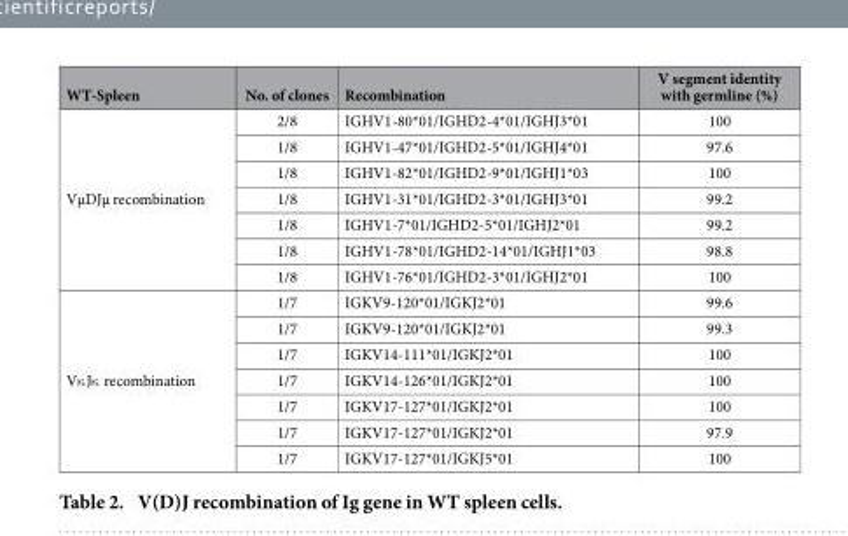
<table><thead><tr><td>WT-Spleen</td><td>No. of clones</td><td>Recombination</td><td>V segment identity with germline (%)</td></tr></thead><tbody><tr><td rowspan="7">VμDJμ recombination</td><td>2/8</td><td>IGHV1-80*01/IGHD2-4*01/IGHJ3*01</td><td>100</td></tr><tr><td>1/8</td><td>IGHV1-47*01/IGHD2-5*01/IGHJ4*01</td><td>97.6</td></tr><tr><td>1/8</td><td>IGHV1-82*01/IGHD2-9*01/IGHJ1*03</td><td>100</td></tr><tr><td>1/8</td><td>IGHV1-31*01/IGHD2-3*01/IGHJ3*01</td><td>99.2</td></tr><tr><td>1/8</td><td>IGHV1-7*01/IGHD2-5*01/IGHJ2*01</td><td>99.2</td></tr><tr><td>1/8</td><td>IGHV1-78*01/IGHD2-14*01/IGHJ1*03</td><td>98.8</td></tr><tr><td>1/8</td><td>IGHV1-76*01/IGHD2-3*01/IGHJ2*01</td><td>100</td></tr><tr><td rowspan="7">Vκ Jκ recombination</td><td>1/7</td><td>IGKV9-120*01/IGKJ2*01</td><td>99.6</td></tr><tr><td>1/7</td><td>IGKV9-120*01/IGKJ2*01</td><td>99.3</td></tr><tr><td>1/7</td><td>IGKV14-111*01/IGKJ2*01</td><td>100</td></tr><tr><td>1/7</td><td>IGKV14-126*01/IGKJ2*01</td><td>100</td></tr><tr><td>1/7</td><td>IGKV17-127*01/IGKJ2*01</td><td>100</td></tr><tr><td>1/7</td><td>IGKV17-127*01/IGKJ2*01</td><td>97.9</td></tr><tr><td>1/7</td><td>IGKV17-127*01/IGKJ5*01</td><td>100</td></tr></tbody></table>